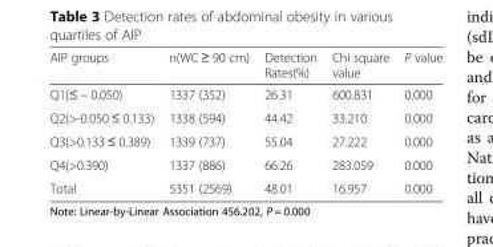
<table><thead><tr><td>AIP groups</td><td>n(WC ≥ 90 cm)</td><td>Detection Rates(%)</td><td>Chi square value</td><td>P value</td></tr></thead><tbody><tr><td>Q1(≤ − 0.050)</td><td>1337 (352)</td><td>26.31</td><td>600.831</td><td>0.000</td></tr><tr><td>Q2(&gt;-0.050 ≤ 0.133)</td><td>1338 (594)</td><td>44.42</td><td>33.210</td><td>0.000</td></tr><tr><td>Q3(&gt;0.133 ≤ 0.389)</td><td>1339 (737)</td><td>55.04</td><td>27.222</td><td>0.000</td></tr><tr><td>Q4(&gt;0.390)</td><td>1337 (886)</td><td>66.26</td><td>283.059</td><td>0.000</td></tr><tr><td>Total</td><td>5351 (2569)</td><td>48.01</td><td>16.957</td><td>0.000</td></tr></tbody></table>